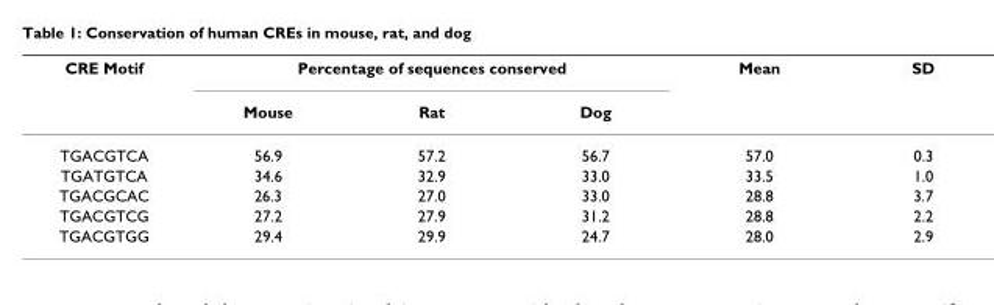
<table><thead><tr><td rowspan="2">CRE Motif</td><td colspan="3">Percentage of sequences conserved</td><td rowspan="2">Mean</td><td rowspan="2">SD</td></tr><tr><td>Mouse</td><td>Rat</td><td>Dog</td></tr></thead><tbody><tr><td>TGACGTCA</td><td>56.9</td><td>57.2</td><td>56.7</td><td>57.0</td><td>0.3</td></tr><tr><td>TGATGTCA</td><td>34.6</td><td>32.9</td><td>33.0</td><td>33.5</td><td>1.0</td></tr><tr><td>TGACGCAC</td><td>26.3</td><td>27.0</td><td>33.0</td><td>28.8</td><td>3.7</td></tr><tr><td>TGACGTCG</td><td>27.2</td><td>27.9</td><td>31.2</td><td>28.8</td><td>2.2</td></tr><tr><td>TGACGTGG</td><td>29.4</td><td>29.9</td><td>24.7</td><td>28.0</td><td>2.9</td></tr></tbody></table>